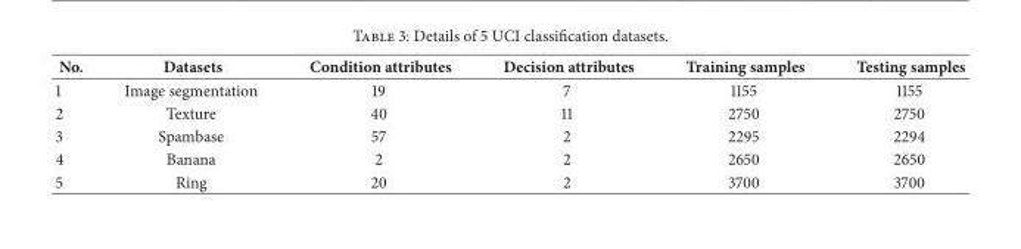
<table><thead><tr><td>No.</td><td>Datasets</td><td>Condition attributes</td><td>Decision attributes</td><td>Training samples</td><td>Testing samples</td></tr></thead><tbody><tr><td>1</td><td>Image segmentation</td><td>19</td><td>7</td><td>1155</td><td>1155</td></tr><tr><td>2</td><td>Texture</td><td>40</td><td>11</td><td>2750</td><td>2750</td></tr><tr><td>3</td><td>Spambase</td><td>57</td><td>2</td><td>2295</td><td>2294</td></tr><tr><td>4</td><td>Banana</td><td>2</td><td>2</td><td>2650</td><td>2650</td></tr><tr><td>5</td><td>Ring</td><td>20</td><td>2</td><td>3700</td><td>3700</td></tr></tbody></table>